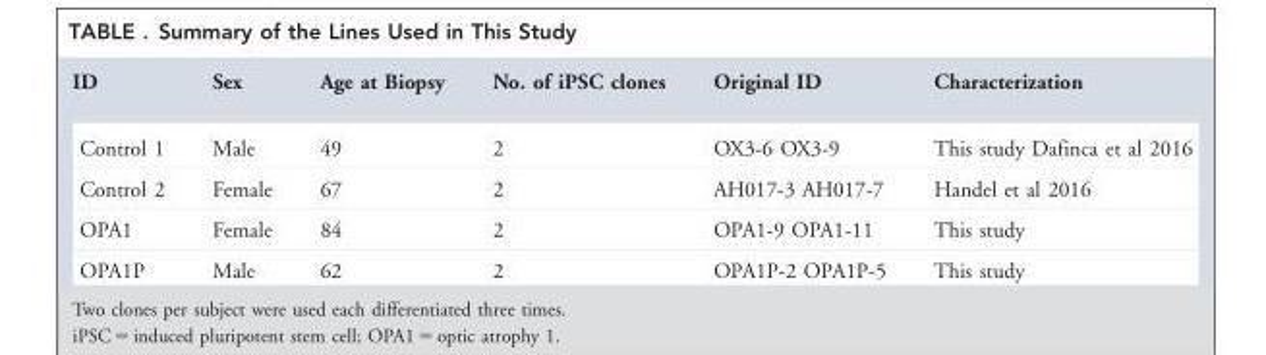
<table><thead><tr><td>ID</td><td>Sex</td><td>Age at Biopsy</td><td>No. of iPSC clones</td><td>Original ID</td><td>Characterization</td></tr></thead><tbody><tr><td>Control 1</td><td>Male</td><td>49</td><td>2</td><td>OX3-6 OX3-9</td><td>This study Dafinca et al 2016</td></tr><tr><td>Control 2</td><td>Female</td><td>67</td><td>2</td><td>AH017-3 AH017-7</td><td>Handel et al 2016</td></tr><tr><td>OPA1</td><td>Female</td><td>84</td><td>2</td><td>OPA1-9 OPA1-11</td><td>This study</td></tr><tr><td>OPA1P</td><td>Male</td><td>62</td><td>2</td><td>OPA1P-2 OPA1P-5</td><td>This study</td></tr></tbody></table>